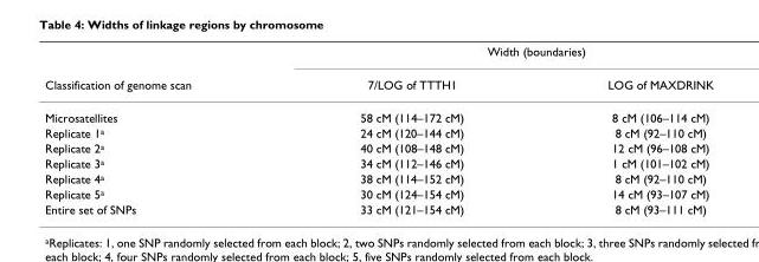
<table><thead><tr><td rowspan="2">Classification of genome scan</td><td colspan="2">Width (boundaries)</td></tr><tr><td>7/LOG of TTTH1</td><td>LOG of MAXDRINK</td></tr></thead><tbody><tr><td>Microsatellites</td><td>58 cM (114–172 cM)</td><td>8 cM (106–114 cM)</td></tr><tr><td>Replicate 1a</td><td>24 cM (120–144 cM)</td><td>8 cM (92–110 cM)</td></tr><tr><td>Replicate 2a</td><td>40 cM (108–148 cM)</td><td>12 cM (96–108 cM)</td></tr><tr><td>Replicate 3a</td><td>34 cM (112–146 cM)</td><td>1 cM (101–102 cM)</td></tr><tr><td>Replicate 4a</td><td>38 cM (114–152 cM)</td><td>8 cM (92–110 cM)</td></tr><tr><td>Replicate 5a</td><td>30 cM (124–154 cM)</td><td>14 cM (93–107 cM)</td></tr><tr><td>Entire set of SNPs</td><td>33 cM (121–154 cM)</td><td>8 cM (93–111 cM)</td></tr></tbody></table>